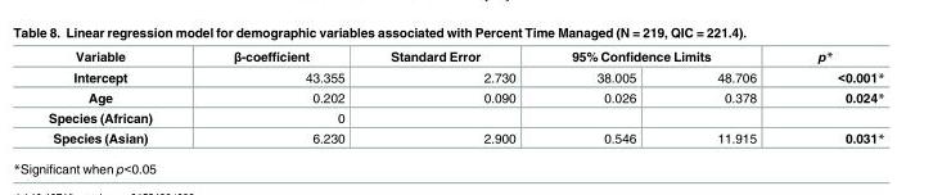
<table><thead><tr><td rowspan="2">Variable Intercept</td><td rowspan="2">β-coefficient 43.355</td><td rowspan="2">Standard Error 2.730</td><td colspan="2">95% Confidence Limits</td><td rowspan="2">p* &lt;0.001*</td></tr><tr><td>38.005</td><td>48.706</td></tr></thead><tbody><tr><td>Age</td><td>0.202</td><td>0.090</td><td>0.026</td><td>0.378</td><td>0.024*</td></tr><tr><td>Species (African)</td><td>0</td><td></td><td></td><td></td><td></td></tr><tr><td>Species (Asian)</td><td>6.230</td><td>2.900</td><td>0.546</td><td>11.915</td><td>0.031*</td></tr></tbody></table>